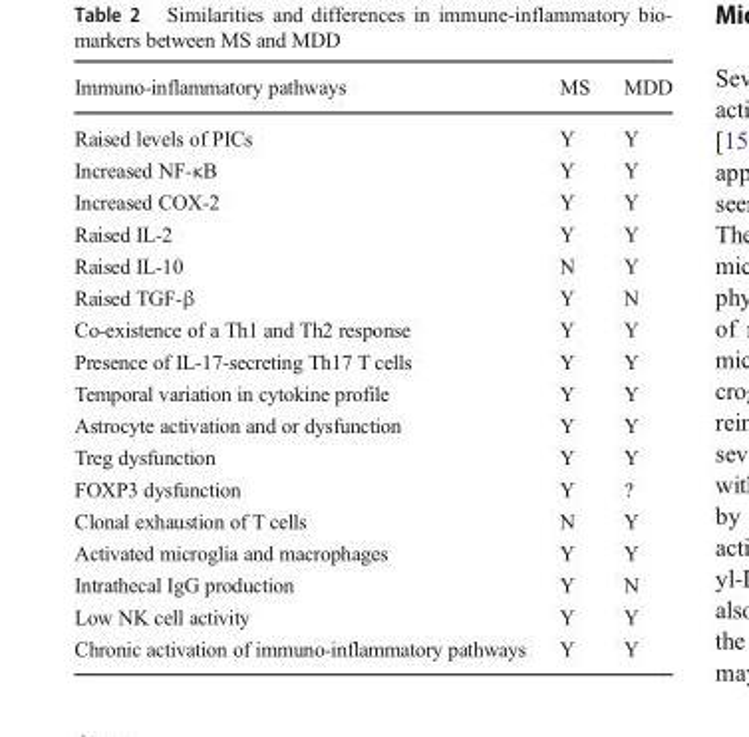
<table><thead><tr><td>Immuno-inflammatory pathways</td><td>MS</td><td>MDD</td></tr></thead><tbody><tr><td>Raised levels of PICs</td><td>Y</td><td>Y</td></tr><tr><td>Increased NF-κB</td><td>Y</td><td>Y</td></tr><tr><td>Increased COX-2</td><td>Y</td><td>Y</td></tr><tr><td>Raised IL-2</td><td>Y</td><td>Y</td></tr><tr><td>Raised IL-10</td><td>N</td><td>Y</td></tr><tr><td>Raised TGF-β</td><td>Y</td><td>N</td></tr><tr><td>Co-existence of a Th1 and Th2 response</td><td>Y</td><td>Y</td></tr><tr><td>Presence of IL-17-secreting Th17 T cells</td><td>Y</td><td>Y</td></tr><tr><td>Temporal variation in cytokine profile</td><td>Y</td><td>Y</td></tr><tr><td>Astrocyte activation and or dysfunction</td><td>Y</td><td>Y</td></tr><tr><td>Treg dysfunction</td><td>Y</td><td>Y</td></tr><tr><td>FOXP3 dysfunction</td><td>Y</td><td>?</td></tr><tr><td>Clonal exhaustion of T cells</td><td>N</td><td>Y</td></tr><tr><td>Activated microglia and macrophages</td><td>Y</td><td>Y</td></tr><tr><td>Intrathecal IgG production</td><td>Y</td><td>N</td></tr><tr><td>Low NK cell activity</td><td>Y</td><td>Y</td></tr><tr><td>Chronic activation of immuno-inflammatory pathways</td><td>Y</td><td>Y</td></tr></tbody></table>